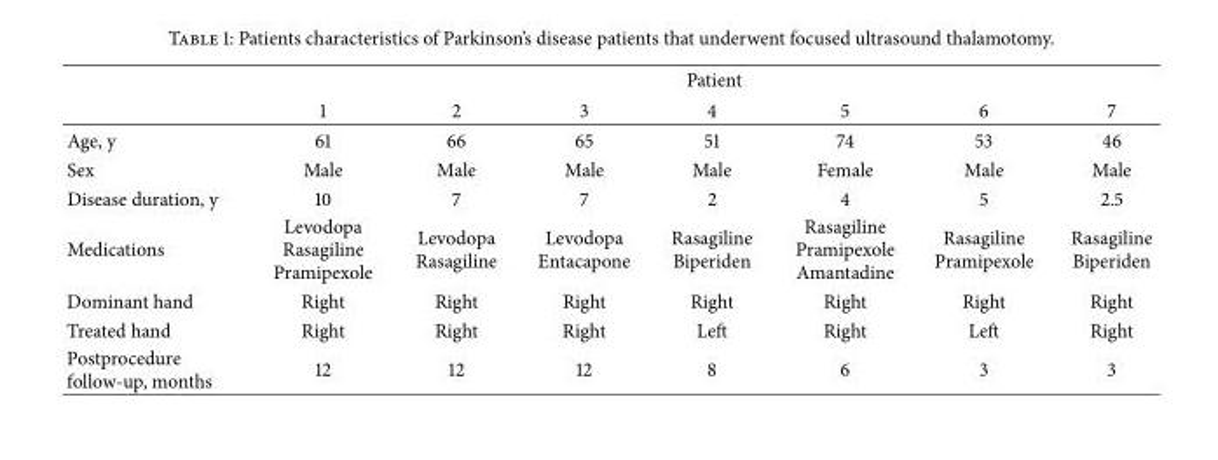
<table><thead><tr><td rowspan="2"></td><td colspan="7">Patient</td></tr><tr><td>1</td><td>2</td><td>3</td><td>4</td><td>5</td><td>6</td><td>7</td></tr></thead><tbody><tr><td>Age, y</td><td>61</td><td>66</td><td>65</td><td>51</td><td>74</td><td>53</td><td>46</td></tr><tr><td>Sex</td><td>Male</td><td>Male</td><td>Male</td><td>Male</td><td>Female</td><td>Male</td><td>Male</td></tr><tr><td>Disease duration, y</td><td>10</td><td>7</td><td>7</td><td>2</td><td>4</td><td>5</td><td>2.5</td></tr><tr><td>Medications</td><td>Levodopa Rasagiline Pramipexole</td><td>Levodopa Rasagiline</td><td>Levodopa Entacapone</td><td>Rasagiline Biperiden</td><td>Rasagiline Pramipexole Amantadine</td><td>Rasagiline Pramipexole</td><td>Rasagiline Biperiden</td></tr><tr><td>Dominant hand</td><td>Right</td><td>Right</td><td>Right</td><td>Right</td><td>Right</td><td>Right</td><td>Right</td></tr><tr><td>Treated hand</td><td>Right</td><td>Right</td><td>Right</td><td>Left</td><td>Right</td><td>Left</td><td>Right</td></tr><tr><td>Postprocedure follow-up, months</td><td>12</td><td>12</td><td>12</td><td>8</td><td>6</td><td>3</td><td>3</td></tr></tbody></table>